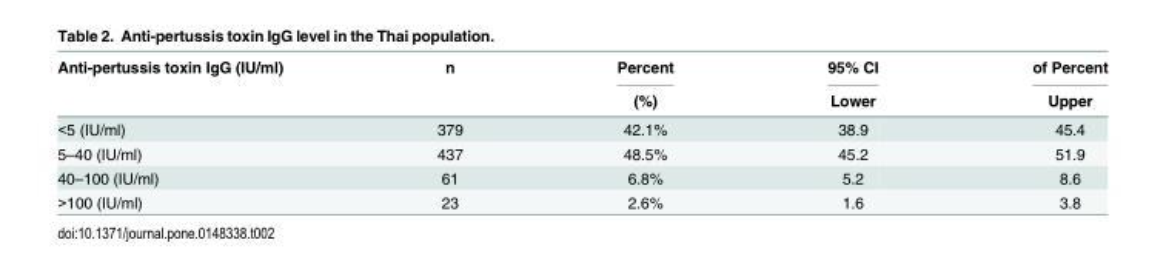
<table><thead><tr><td rowspan="2">Anti-pertussis toxin IgG (IU/ml)</td><td rowspan="2">n</td><td rowspan="2">Percent (%)</td><td rowspan="2">95% CI Lower</td><td rowspan="2">of Percent Upper</td></tr><tr></tr></thead><tbody><tr><td>&lt;5 (IU/ml)</td><td>379</td><td>42.1%</td><td>38.9</td><td>45.4</td></tr><tr><td>5–40 (IU/ml)</td><td>437</td><td>48.5%</td><td>45.2</td><td>51.9</td></tr><tr><td>40–100 (IU/ml)</td><td>61</td><td>6.8%</td><td>5.2</td><td>8.6</td></tr><tr><td>&gt;100 (IU/ml)</td><td>23</td><td>2.6%</td><td>1.6</td><td>3.8</td></tr></tbody></table>